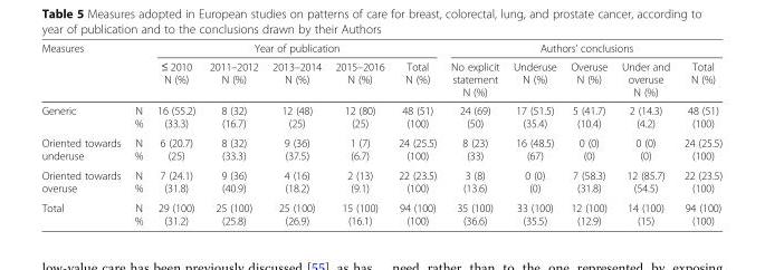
<table><thead><tr><td rowspan="2" colspan="2">Measures</td><td colspan="5">Year of publication</td><td colspan="5">Authors’ conclusions</td></tr><tr><td rowspan="2">≤ 2010 N (%) 16 (55.2) (33.3)</td><td rowspan="2">2011–2012 N (%) 8 (32) (16.7)</td><td rowspan="2">2013–2014 N (%) 12 (48) (25)</td><td rowspan="2">2015–2016 N (%) 12 (80) (25)</td><td rowspan="2">Total N (%) 48 (51) (100)</td><td rowspan="2">No explicit statement N (%) 24 (69) (50)</td><td rowspan="2">Underuse N (%) 17 (51.5) (35.4)</td><td rowspan="2">Overuse N (%) 5 (41.7) (10.4)</td><td rowspan="2">Under and overuse N (%) 2 (14.3) (4.2)</td><td rowspan="2">Total N (%) 48 (51) (100)</td></tr><tr><td>Generic</td><td>N %</td></tr></thead><tbody><tr><td>Oriented towards underuse</td><td>N %</td><td>6 (20.7) (25)</td><td>8 (32) (33.3)</td><td>9 (36) (37.5)</td><td>1 (7) (6.7)</td><td>24 (25.5) (100)</td><td>8 (23) (33)</td><td>16 (48.5) (67)</td><td>0 (0) (0)</td><td>0 (0) (0)</td><td>24 (25.5) (100)</td></tr><tr><td>Oriented towards overuse</td><td>N %</td><td>7 (24.1) (31.8)</td><td>9 (36) (40.9)</td><td>4 (16) (18.2)</td><td>2 (13) (9.1)</td><td>22 (23.5) (100)</td><td>3 (8) (13.6)</td><td>0 (0) (0)</td><td>7 (58.3) (31.8)</td><td>12 (85.7) (54.5)</td><td>22 (23.5) (100)</td></tr><tr><td>Total</td><td>N %</td><td>29 (100) (31.2)</td><td>25 (100) (25.8)</td><td>25 (100) (26.9)</td><td>15 (100) (16.1)</td><td>94 (100) (100)</td><td>35 (100) (36.6)</td><td>33 (100) (35.5)</td><td>12 (100) (12.9)</td><td>14 (100) (15)</td><td>94 (100) (100)</td></tr></tbody></table>